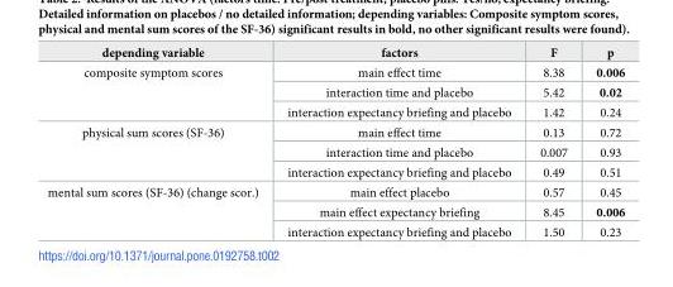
<table><thead><tr><td>depending variable</td><td>factors</td><td>F</td><td>p</td></tr></thead><tbody><tr><td rowspan="3">composite symptom scores</td><td>main effect time</td><td>8.38</td><td>0.006</td></tr><tr><td>interaction time and placebo</td><td>5.42</td><td>0.02</td></tr><tr><td>interaction expectancy briefing and placebo</td><td>1.42</td><td>0.24</td></tr><tr><td rowspan="3">physical sum scores (SF-36)</td><td>main effect time</td><td>0.13</td><td>0.72</td></tr><tr><td>interaction time and placebo</td><td>0.007</td><td>0.93</td></tr><tr><td>interaction expectancy briefing and placebo</td><td>0.49</td><td>0.51</td></tr><tr><td rowspan="3">mental sum scores (SF-36) (change scor.)</td><td>main effect placebo</td><td>0.57</td><td>0.45</td></tr><tr><td>main effect expectancy briefing</td><td>8.45</td><td>0.006</td></tr><tr><td>interaction expectancy briefing and placebo</td><td>1.50</td><td>0.23</td></tr></tbody></table>